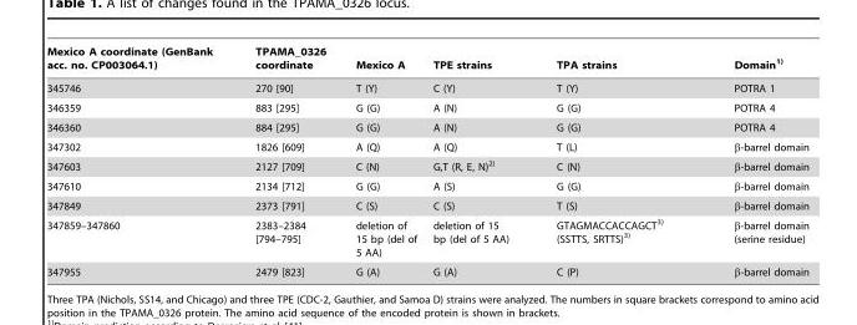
<table><thead><tr><td>Mexico A coordinate (GenBank acc. no. CP003064.1)</td><td>TPAMA_0326 coordinate</td><td>Mexico A</td><td>TPE strains</td><td>TPA strains</td><td>Domain1)</td></tr></thead><tbody><tr><td>345746</td><td>270 [90]</td><td>T (Y)</td><td>C (Y)</td><td>T (Y)</td><td>POTRA 1</td></tr><tr><td>346359</td><td>883 [295]</td><td>G (G)</td><td>A (N)</td><td>G (G)</td><td>POTRA 4</td></tr><tr><td>346360</td><td>884 [295]</td><td>G (G)</td><td>A (N)</td><td>G (G)</td><td>POTRA 4</td></tr><tr><td>347302</td><td>1826 [609]</td><td>A (Q)</td><td>A (Q)</td><td>T (L)</td><td>β-barrel domain</td></tr><tr><td>347603</td><td>2127 [709]</td><td>C (N)</td><td>G,T (R, E, N)2)</td><td>C (N)</td><td>β-barrel domain</td></tr><tr><td>347610</td><td>2134 [712]</td><td>G (G)</td><td>A (S)</td><td>G (G)</td><td>β-barrel domain</td></tr><tr><td>347849</td><td>2373 [791]</td><td>C (S)</td><td>C (S)</td><td>T (S)</td><td>β-barrel domain</td></tr><tr><td>347859–347860</td><td>2383–2384 [794–795]</td><td>deletion of 15 bp (del of 5 AA)</td><td>deletion of 15 bp (del of 5 AA)</td><td>GTAGMACCACCAGCT3) (SSTTS, SRTTS)3)</td><td>β-barrel domain (serine residue)</td></tr><tr><td>347955</td><td>2479 [823]</td><td>G (A)</td><td>G (A)</td><td>C (P)</td><td>β-barrel domain</td></tr></tbody></table>